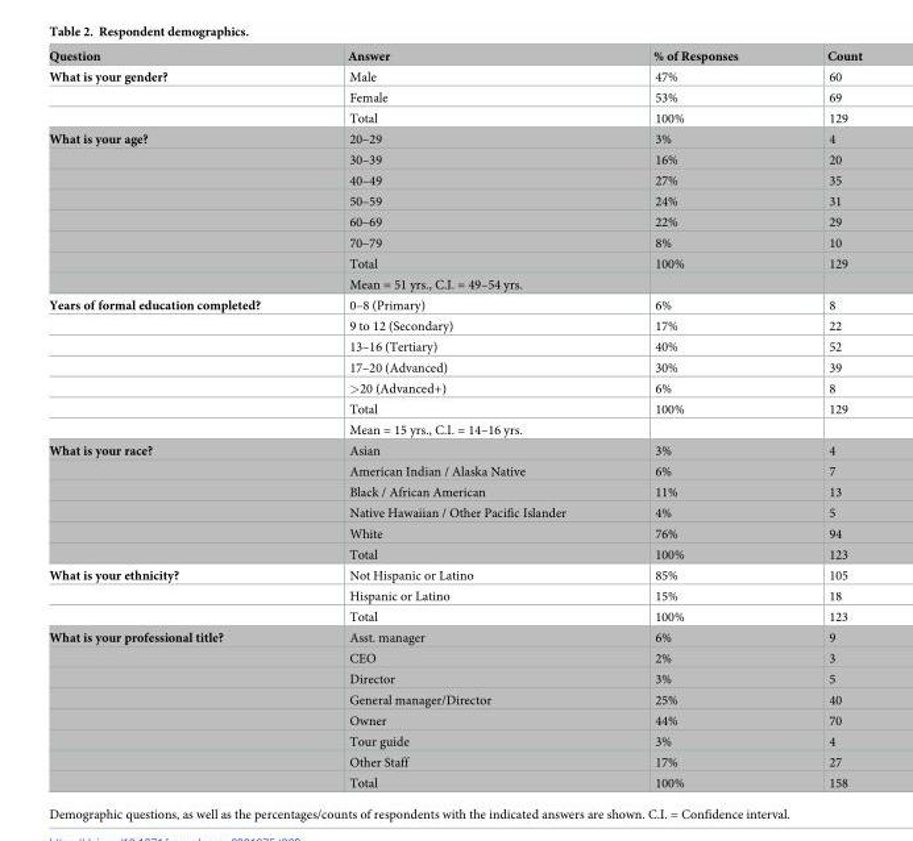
<table><thead><tr><td>Question</td><td>Answer</td><td>% of Responses</td><td>Count</td></tr></thead><tbody><tr><td rowspan="3">What is your gender?</td><td>Male</td><td>47%</td><td>60</td></tr><tr><td>Female</td><td>53%</td><td>69</td></tr><tr><td>Total</td><td>100%</td><td>129</td></tr><tr><td rowspan="8">What is your age?</td><td>20–29</td><td>3%</td><td>4</td></tr><tr><td>30–39</td><td>16%</td><td>20</td></tr><tr><td>40–49</td><td>27%</td><td>35</td></tr><tr><td>50–59</td><td>24%</td><td>31</td></tr><tr><td>60–69</td><td>22%</td><td>29</td></tr><tr><td>70–79</td><td>8%</td><td>10</td></tr><tr><td>Total</td><td>100%</td><td>129</td></tr><tr><td>Mean = 51 yrs., C.I. = 49–54 yrs.</td><td></td><td></td></tr><tr><td rowspan="7">Years of formal education completed?</td><td>0–8 (Primary)</td><td>6%</td><td>8</td></tr><tr><td>9 to 12 (Secondary)</td><td>17%</td><td>22</td></tr><tr><td>13–16 (Tertiary)</td><td>40%</td><td>52</td></tr><tr><td>17–20 (Advanced)</td><td>30%</td><td>39</td></tr><tr><td>&gt;20 (Advanced+)</td><td>6%</td><td>8</td></tr><tr><td>Total</td><td>100%</td><td>129</td></tr><tr><td>Mean = 15 yrs., C.I. = 14–16 yrs.</td><td></td><td></td></tr><tr><td rowspan="6">What is your race?</td><td>Asian</td><td>3%</td><td>4</td></tr><tr><td>American Indian / Alaska Native</td><td>6%</td><td>7</td></tr><tr><td>Black / African American</td><td>11%</td><td>13</td></tr><tr><td>Native Hawaiian / Other Pacific Islander</td><td>4%</td><td>5</td></tr><tr><td>White</td><td>76%</td><td>94</td></tr><tr><td>Total</td><td>100%</td><td>123</td></tr><tr><td rowspan="3">What is your ethnicity?</td><td>Not Hispanic or Latino</td><td>85%</td><td>105</td></tr><tr><td>Hispanic or Latino</td><td>15%</td><td>18</td></tr><tr><td>Total</td><td>100%</td><td>123</td></tr><tr><td rowspan="8">What is your professional title?</td><td>Asst. manager</td><td>6%</td><td>9</td></tr><tr><td>CEO</td><td>2%</td><td>3</td></tr><tr><td>Director</td><td>3%</td><td>5</td></tr><tr><td>General manager/Director</td><td>25%</td><td>40</td></tr><tr><td>Owner</td><td>44%</td><td>70</td></tr><tr><td>Tour guide</td><td>3%</td><td>4</td></tr><tr><td>Other Staff</td><td>17%</td><td>27</td></tr><tr><td>Total</td><td>100%</td><td>158</td></tr></tbody></table>